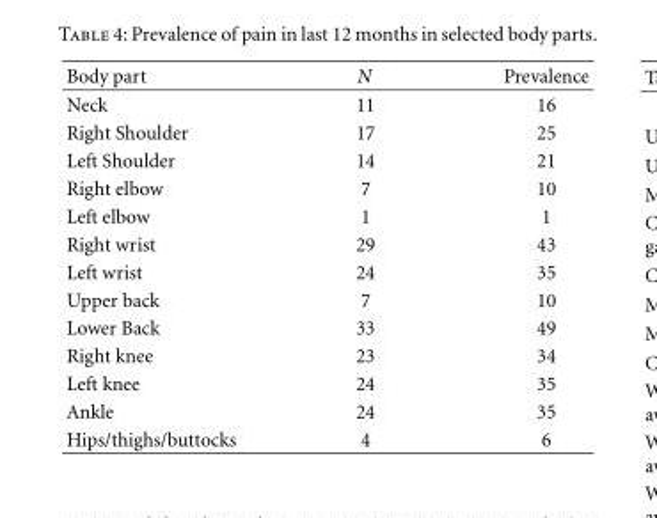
<table><thead><tr><td>Body part</td><td>N</td><td>Prevalence</td></tr></thead><tbody><tr><td>Neck</td><td>11</td><td>16</td></tr><tr><td>Right Shoulder</td><td>17</td><td>25</td></tr><tr><td>Left Shoulder</td><td>14</td><td>21</td></tr><tr><td>Right elbow</td><td>7</td><td>10</td></tr><tr><td>Left elbow</td><td>1</td><td>1</td></tr><tr><td>Right wrist</td><td>29</td><td>43</td></tr><tr><td>Left wrist</td><td>24</td><td>35</td></tr><tr><td>Upper back</td><td>7</td><td>10</td></tr><tr><td>Lower Back</td><td>33</td><td>49</td></tr><tr><td>Right knee</td><td>23</td><td>34</td></tr><tr><td>Left knee</td><td>24</td><td>35</td></tr><tr><td>Ankle</td><td>24</td><td>35</td></tr><tr><td>Hips/thighs/buttocks</td><td>4</td><td>6</td></tr></tbody></table>